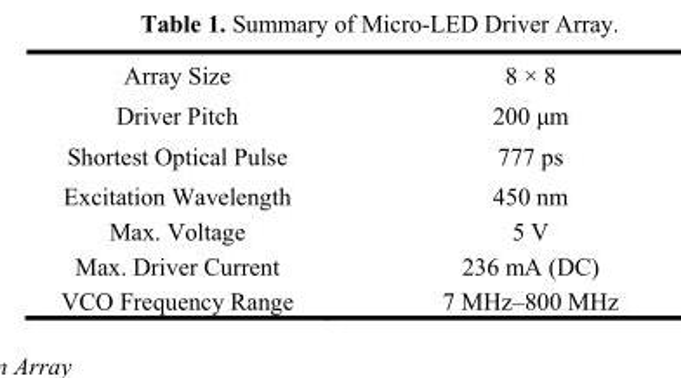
<table><tbody><tr><td>Array Size</td><td>8 × 8</td></tr><tr><td>Driver Pitch</td><td>200 μm</td></tr><tr><td>Shortest Optical Pulse</td><td>777 ps</td></tr><tr><td>Excitation Wavelength</td><td>450 nm</td></tr><tr><td>Max. Voltage</td><td>5 V</td></tr><tr><td>Max. Driver Current</td><td>236 mA (DC)</td></tr><tr><td>VCO Frequency Range</td><td>7 MHz–800 MHz</td></tr></tbody></table>